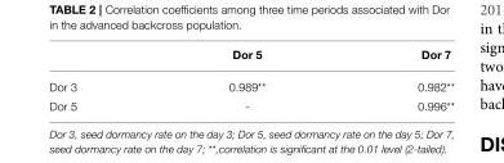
<table><thead><tr><td></td><td>Dor 5</td><td>Dor 7</td></tr></thead><tbody><tr><td>Dor 3</td><td>0.989**</td><td>0.982**</td></tr><tr><td>Dor 5</td><td>-</td><td>0.996**</td></tr></tbody></table>